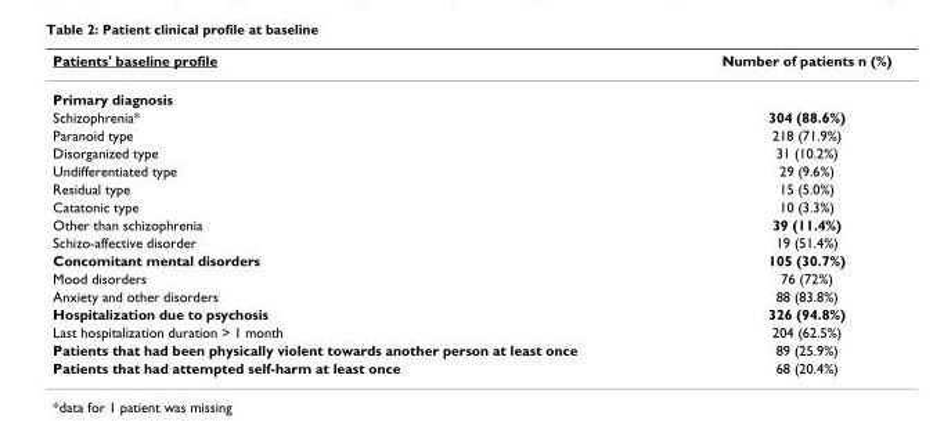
<table><thead><tr><td>Patients&#x27; baseline profile</td><td>Number of patients n (%)</td></tr></thead><tbody><tr><td colspan="2">Primary diagnosis</td></tr><tr><td>Schizophrenia*</td><td>304 (88.6%)</td></tr><tr><td>Paranoid type</td><td>218 (71.9%)</td></tr><tr><td>Disorganized type</td><td>31 (10.2%)</td></tr><tr><td>Undifferentiated type</td><td>29 (9.6%)</td></tr><tr><td>Residual type</td><td>15 (5.0%)</td></tr><tr><td>Catatonic type</td><td>10 (3.3%)</td></tr><tr><td>Other than schizophrenia</td><td>39 (11.4%)</td></tr><tr><td>Schizo-affective disorder</td><td>19 (51.4%)</td></tr><tr><td>Concomitant mental disorders</td><td>105 (30.7%)</td></tr><tr><td>Mood disorders</td><td>76 (72%)</td></tr><tr><td>Anxiety and other disorders</td><td>88 (83.8%)</td></tr><tr><td>Hospitalization due to psychosis</td><td>326 (94.8%)</td></tr><tr><td>Last hospitalization duration &gt; 1 month</td><td>204 (62.5%)</td></tr><tr><td>Patients that had been physically violent towards another person at least once</td><td>89 (25.9%)</td></tr><tr><td>Patients that had attempted self-harm at least once</td><td>68 (20.4%)</td></tr></tbody></table>